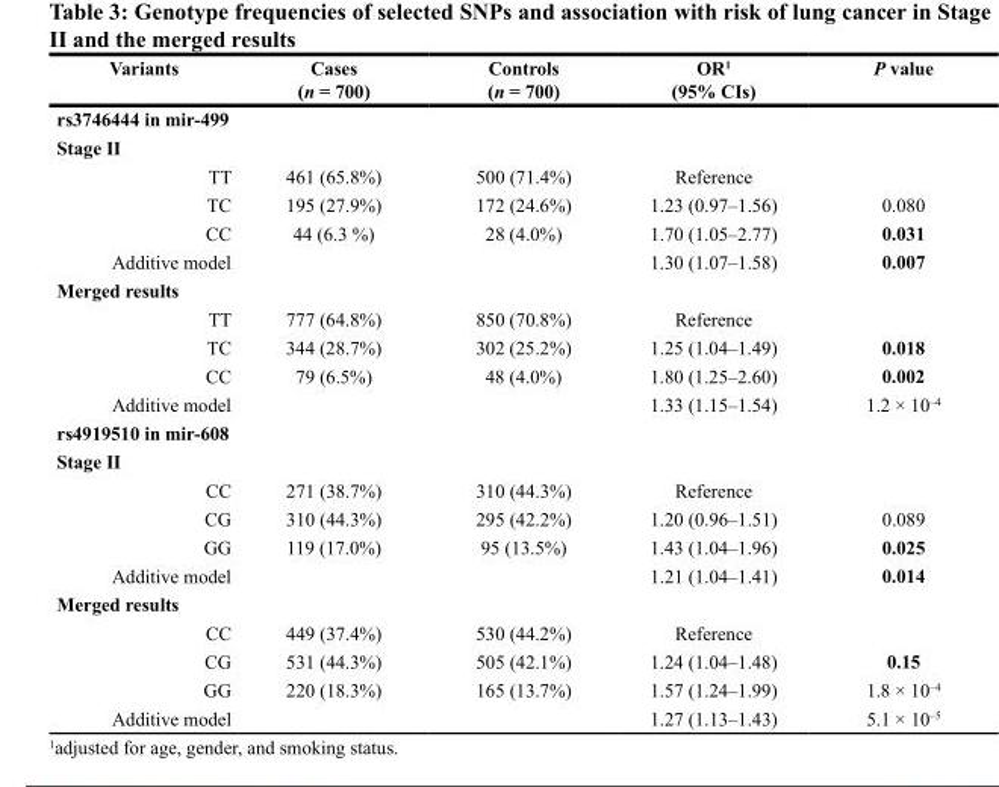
<table><thead><tr><td>Variants</td><td>cases (n = 700)</td><td>controls (n = 700)</td><td>or<sup>1</sup> (95% cIs)</td><td>P value</td></tr></thead><tbody><tr><td colspan="5">rs3746444 in mir-499</td></tr><tr><td colspan="5">stage II</td></tr><tr><td>TT</td><td>461 (65.8%)</td><td>500 (71.4%)</td><td>Reference</td><td></td></tr><tr><td>TC</td><td>195 (27.9%)</td><td>172 (24.6%)</td><td>1.23 (0.97–1.56)</td><td>0.080</td></tr><tr><td>CC</td><td>44 (6.3 %)</td><td>28 (4.0%)</td><td>1.70 (1.05–2.77)</td><td>0.031</td></tr><tr><td>Additive model</td><td></td><td></td><td>1.30 (1.07–1.58)</td><td>0.007</td></tr><tr><td colspan="5">Merged results</td></tr><tr><td>TT</td><td>777 (64.8%)</td><td>850 (70.8%)</td><td>Reference</td><td></td></tr><tr><td>TC</td><td>344 (28.7%)</td><td>302 (25.2%)</td><td>1.25 (1.04–1.49)</td><td>0.018</td></tr><tr><td>CC</td><td>79 (6.5%)</td><td>48 (4.0%)</td><td>1.80 (1.25–2.60)</td><td>0.002</td></tr><tr><td>Additive model</td><td></td><td></td><td>1.33 (1.15–1.54)</td><td>1.2 × 10<sup>–4</sup></td></tr><tr><td colspan="5">rs4919510 in mir-608</td></tr><tr><td colspan="5">stage II</td></tr><tr><td>CC</td><td>271 (38.7%)</td><td>310 (44.3%)</td><td>Reference</td><td></td></tr><tr><td>CG</td><td>310 (44.3%)</td><td>295 (42.2%)</td><td>1.20 (0.96–1.51)</td><td>0.089</td></tr><tr><td>GG</td><td>119 (17.0%)</td><td>95 (13.5%)</td><td>1.43 (1.04–1.96)</td><td>0.025</td></tr><tr><td>Additive model</td><td></td><td></td><td>1.21 (1.04–1.41)</td><td>0.014</td></tr><tr><td colspan="5">Merged results</td></tr><tr><td>CC</td><td>449 (37.4%)</td><td>530 (44.2%)</td><td>Reference</td><td></td></tr><tr><td>CG</td><td>531 (44.3%)</td><td>505 (42.1%)</td><td>1.24 (1.04–1.48)</td><td>0.15</td></tr><tr><td>GG</td><td>220 (18.3%)</td><td>165 (13.7%)</td><td>1.57 (1.24–1.99)</td><td>1.8 × 10<sup>–4</sup></td></tr><tr><td>Additive model</td><td></td><td></td><td>1.27 (1.13–1.43)</td><td>5.1 × 10<sup>–5</sup></td></tr></tbody></table>